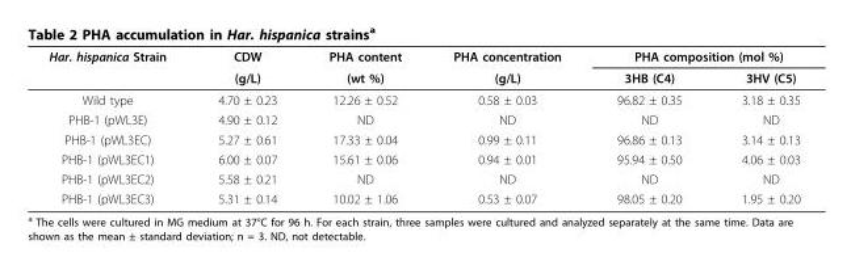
<table><thead><tr><td rowspan="2">Har. hispanica Strain</td><td rowspan="2">CDW (g/L)</td><td rowspan="2">PHA content (wt %)</td><td rowspan="2">PHA concentration (g/L)</td><td colspan="2">PHA composition (mol %)</td></tr><tr><td>3HB (C4)</td><td>3HV (C5)</td></tr></thead><tbody><tr><td>Wild type</td><td>4.70 ± 0.23</td><td>12.26 ± 0.52</td><td>0.58 ± 0.03</td><td>96.82 ± 0.35</td><td>3.18 ± 0.35</td></tr><tr><td>PHB-1 (pWL3E)</td><td>4.90 ± 0.12</td><td>ND</td><td>ND</td><td>ND</td><td>ND</td></tr><tr><td>PHB-1 (pWL3EC)</td><td>5.27 ± 0.61</td><td>17.33 ± 0.04</td><td>0.99 ± 0.11</td><td>96.86 ± 0.13</td><td>3.14 ± 0.13</td></tr><tr><td>PHB-1 (pWL3EC1)</td><td>6.00 ± 0.07</td><td>15.61 ± 0.06</td><td>0.94 ± 0.01</td><td>95.94 ± 0.50</td><td>4.06 ± 0.03</td></tr><tr><td>PHB-1 (pWL3EC2)</td><td>5.58 ± 0.21</td><td>ND</td><td>ND</td><td>ND</td><td>ND</td></tr><tr><td>PHB-1 (pWL3EC3)</td><td>5.31 ± 0.14</td><td>10.02 ± 1.06</td><td>0.53 ± 0.07</td><td>98.05 ± 0.20</td><td>1.95 ± 0.20</td></tr></tbody></table>